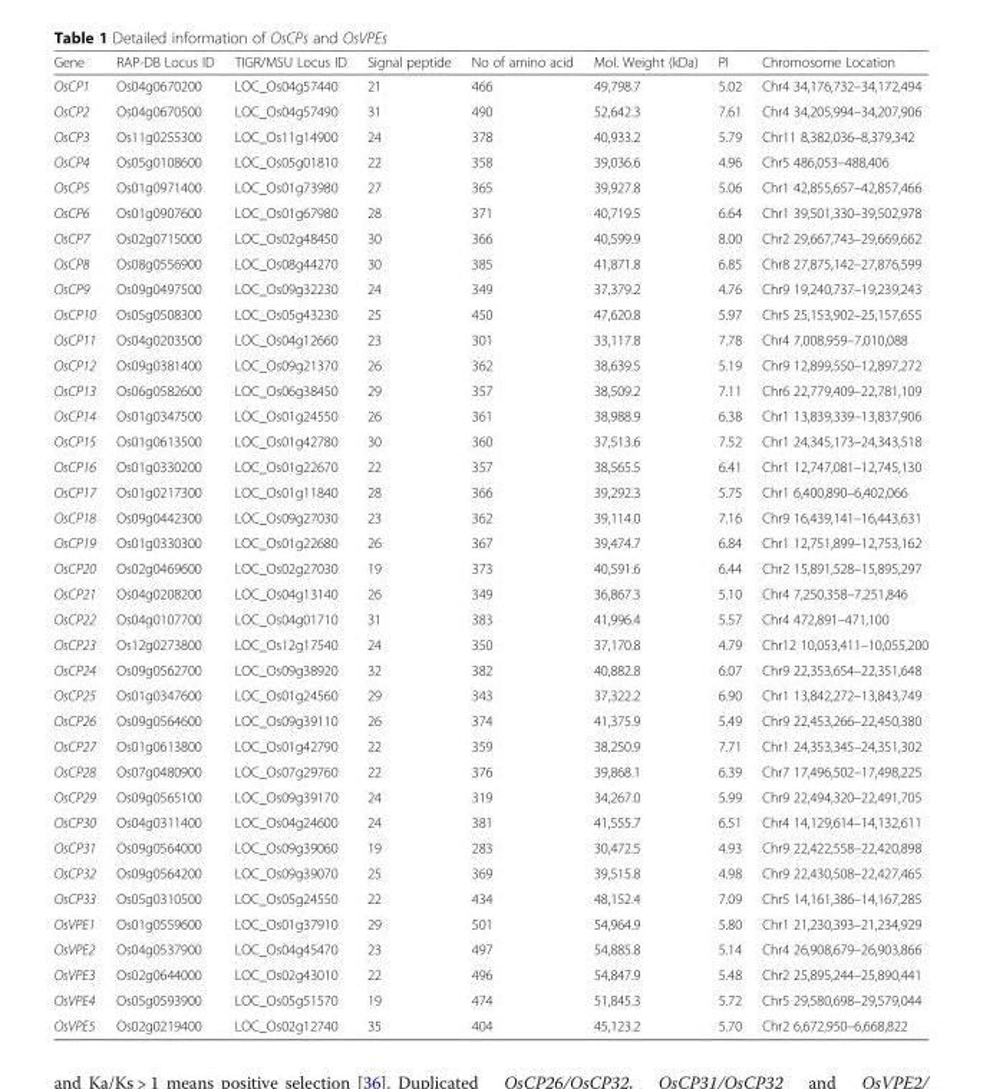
<table><thead><tr><td>Gene</td><td>RAP-DB Locus ID</td><td>TIGR/MSU Locus ID</td><td>Signal peptide</td><td>No of amino acid</td><td>Mol. Weight (kDa)</td><td>PI</td><td>Chromosome Location</td></tr></thead><tbody><tr><td>OsCP1</td><td>Os04g0670200</td><td>LOC_Os04g57440</td><td>21</td><td>466</td><td>49,798.7</td><td>5.02</td><td>Chr4 34,176,732–34,172,494</td></tr><tr><td>OsCP2</td><td>Os04g0670500</td><td>LOC_Os04g57490</td><td>31</td><td>490</td><td>52,642.3</td><td>7.61</td><td>Chr4 34,205,994–34,207,906</td></tr><tr><td>OsCP3</td><td>Os11g0255300</td><td>LOC_Os11g14900</td><td>24</td><td>378</td><td>40,933.2</td><td>5.79</td><td>Chr11 8,382,036–8,379,342</td></tr><tr><td>OsCP4</td><td>Os05g0108600</td><td>LOC_Os05g01810</td><td>22</td><td>358</td><td>39,036.6</td><td>4.96</td><td>Chr5 486,053–488,406</td></tr><tr><td>OsCP5</td><td>Os01g0971400</td><td>LOC_Os01g73980</td><td>27</td><td>365</td><td>39,927.8</td><td>5.06</td><td>Chr1 42,855,657–42,857,466</td></tr><tr><td>OsCP6</td><td>Os01g0907600</td><td>LOC_Os01g67980</td><td>28</td><td>371</td><td>40,719.5</td><td>6.64</td><td>Chr1 39,501,330–39,502,978</td></tr><tr><td>OsCP7</td><td>Os02g0715000</td><td>LOC_Os02g48450</td><td>30</td><td>366</td><td>40,599.9</td><td>8.00</td><td>Chr2 29,667,743–29,669,662</td></tr><tr><td>OsCP8</td><td>Os08g0556900</td><td>LOC_Os08g44270</td><td>30</td><td>385</td><td>41,871.8</td><td>6.85</td><td>Chr8 27,875,142–27,876,599</td></tr><tr><td>OsCP9</td><td>Os09g0497500</td><td>LOC_Os09g32230</td><td>24</td><td>349</td><td>37,379.2</td><td>4.76</td><td>Chr9 19,240,737–19,239,243</td></tr><tr><td>OsCP10</td><td>Os05g0508300</td><td>LOC_Os05g43230</td><td>25</td><td>450</td><td>47,620.8</td><td>5.97</td><td>Chr5 25,153,902–25,157,655</td></tr><tr><td>OsCP11</td><td>Os04g0203500</td><td>LOC_Os04g12660</td><td>23</td><td>301</td><td>33,117.8</td><td>7.78</td><td>Chr4 7,008,959–7,010,088</td></tr><tr><td>OsCP12</td><td>Os09g0381400</td><td>LOC_Os09g21370</td><td>26</td><td>362</td><td>38,639.5</td><td>5.19</td><td>Chr9 12,899,550–12,897,272</td></tr><tr><td>OsCP13</td><td>Os06g0582600</td><td>LOC_Os06g38450</td><td>29</td><td>357</td><td>38,509.2</td><td>7.11</td><td>Chr6 22,779,409–22,781,109</td></tr><tr><td>OsCP14</td><td>Os01g0347500</td><td>LOC_Os01g24550</td><td>26</td><td>361</td><td>38,988.9</td><td>6.38</td><td>Chr1 13,839,339–13,837,906</td></tr><tr><td>OsCP15</td><td>Os01g0613500</td><td>LOC_Os01g42780</td><td>30</td><td>360</td><td>37,513.6</td><td>7.52</td><td>Chr1 24,345,173–24,343,518</td></tr><tr><td>OsCP16</td><td>Os01g0330200</td><td>LOC_Os01g22670</td><td>22</td><td>357</td><td>38,565.5</td><td>6.41</td><td>Chr1 12,747,081–12,745,130</td></tr><tr><td>OsCP17</td><td>Os01g0217300</td><td>LOC_Os01g11840</td><td>28</td><td>366</td><td>39,292.3</td><td>5.75</td><td>Chr1 6,400,890–6,402,066</td></tr><tr><td>OsCP18</td><td>Os09g0442300</td><td>LOC_Os09g27030</td><td>23</td><td>362</td><td>39,114.0</td><td>7.16</td><td>Chr9 16,439,141–16,443,631</td></tr><tr><td>OsCP19</td><td>Os01g0330300</td><td>LOC_Os01g22680</td><td>26</td><td>367</td><td>39,474.7</td><td>6.84</td><td>Chr1 12,751,899–12,753,162</td></tr><tr><td>OsCP20</td><td>Os02g0469600</td><td>LOC_Os02g27030</td><td>19</td><td>373</td><td>40,591.6</td><td>6.44</td><td>Chr2 15,891,528–15,895,297</td></tr><tr><td>OsCP21</td><td>Os04g0208200</td><td>LOC_Os04g13140</td><td>26</td><td>349</td><td>36,867.3</td><td>5.10</td><td>Chr4 7,250,358–7,251,846</td></tr><tr><td>OsCP22</td><td>Os04g0107700</td><td>LOC_Os04g01710</td><td>31</td><td>383</td><td>41,996.4</td><td>5.57</td><td>Chr4 472,891–471,100</td></tr><tr><td>OsCP23</td><td>Os12g0273800</td><td>LOC_Os12g17540</td><td>24</td><td>350</td><td>37,170.8</td><td>4.79</td><td>Chr12 10,053,411–10,055,200</td></tr><tr><td>OsCP24</td><td>Os09g0562700</td><td>LOC_Os09g38920</td><td>32</td><td>382</td><td>40,882.8</td><td>6.07</td><td>Chr9 22,353,654–22,351,648</td></tr><tr><td>OsCP25</td><td>Os01g0347600</td><td>LOC_Os01g24560</td><td>29</td><td>343</td><td>37,322.2</td><td>6.90</td><td>Chr1 13,842,272–13,843,749</td></tr><tr><td>OsCP26</td><td>Os09g0564600</td><td>LOC_Os09g39110</td><td>26</td><td>374</td><td>41,375.9</td><td>5.49</td><td>Chr9 22,453,266–22,450,380</td></tr><tr><td>OsCP27</td><td>Os01g0613800</td><td>LOC_Os01g42790</td><td>22</td><td>359</td><td>38,250.9</td><td>7.71</td><td>Chr1 24,353,345–24,351,302</td></tr><tr><td>OsCP28</td><td>Os07g0480900</td><td>LOC_Os07g29760</td><td>22</td><td>376</td><td>39,868.1</td><td>6.39</td><td>Chr7 17,496,502–17,498,225</td></tr><tr><td>OsCP29</td><td>Os09g0565100</td><td>LOC_Os09g39170</td><td>24</td><td>319</td><td>34,267.0</td><td>5.99</td><td>Chr9 22,494,320–22,491,705</td></tr><tr><td>OsCP30</td><td>Os04g0311400</td><td>LOC_Os04g24600</td><td>24</td><td>381</td><td>41,555.7</td><td>6.51</td><td>Chr4 14,129,614–14,132,611</td></tr><tr><td>OsCP31</td><td>Os09g0564000</td><td>LOC_Os09g39060</td><td>19</td><td>283</td><td>30,472.5</td><td>4.93</td><td>Chr9 22,422,558–22,420,898</td></tr><tr><td>OsCP32</td><td>Os09g0564200</td><td>LOC_Os09g39070</td><td>25</td><td>369</td><td>39,515.8</td><td>4.98</td><td>Chr9 22,430,508–22,427,465</td></tr><tr><td>OsCP33</td><td>Os05g0310500</td><td>LOC_Os05g24550</td><td>22</td><td>434</td><td>48,152.4</td><td>7.09</td><td>Chr5 14,161,386–14,167,285</td></tr><tr><td>OsVPE1</td><td>Os01g0559600</td><td>LOC_Os01g37910</td><td>29</td><td>501</td><td>54,964.9</td><td>5.80</td><td>Chr1 21,230,393–21,234,929</td></tr><tr><td>OsVPE2</td><td>Os04g0537900</td><td>LOC_Os04g45470</td><td>23</td><td>497</td><td>54,885.8</td><td>5.14</td><td>Chr4 26,908,679–26,903,866</td></tr><tr><td>OsVPE3</td><td>Os02g0644000</td><td>LOC_Os02g43010</td><td>22</td><td>496</td><td>54,847.9</td><td>5.48</td><td>Chr2 25,895,244–25,890,441</td></tr><tr><td>OsVPE4</td><td>Os05g0593900</td><td>LOC_Os05g51570</td><td>19</td><td>474</td><td>51,845.3</td><td>5.72</td><td>Chr5 29,580,698–29,579,044</td></tr><tr><td>OsVPE5</td><td>Os02g0219400</td><td>LOC_Os02g12740</td><td>35</td><td>404</td><td>45,123.2</td><td>5.70</td><td>Chr2 6,672,950–6,668,822</td></tr></tbody></table>